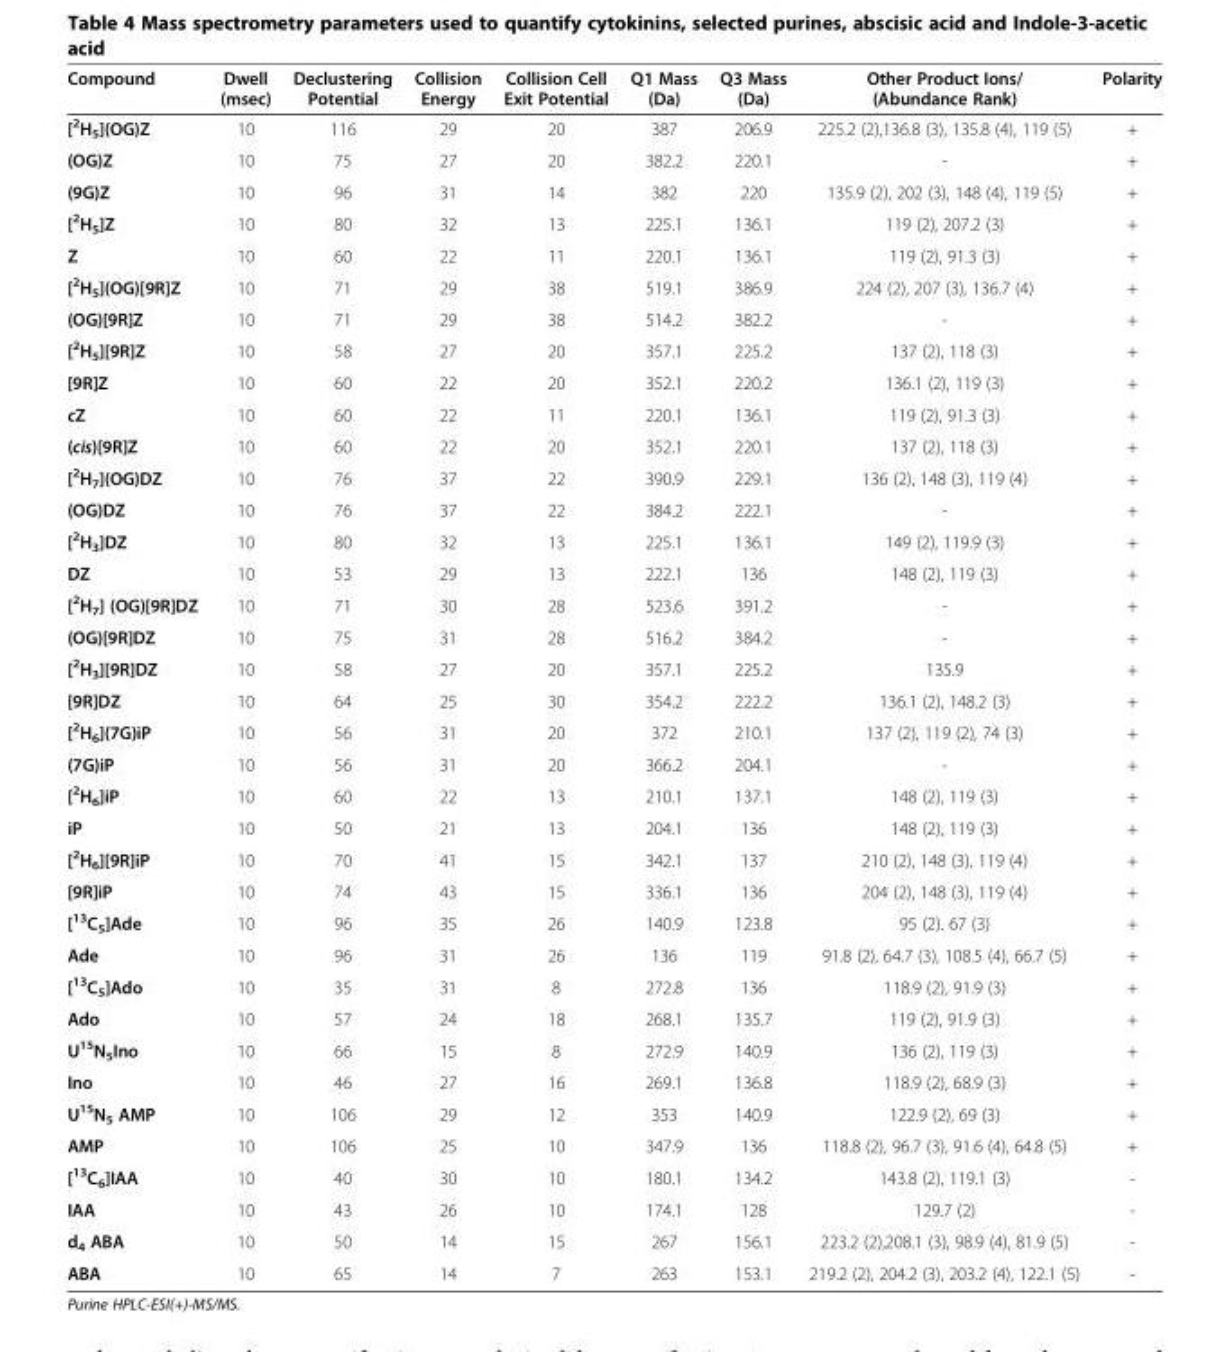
<table><thead><tr><td>Compound</td><td>Dwell (msec)</td><td>Declustering Potential</td><td>Collision Energy</td><td>Collision Cell Exit Potential</td><td>Q1 Mass (Da)</td><td>Q3 Mass (Da)</td><td>Other Product Ions/ (Abundance Rank)</td><td>Polarity</td></tr></thead><tbody><tr><td>[<sup>2</sup>H<sub>5</sub>](OG)Z</td><td>10</td><td>116</td><td>29</td><td>20</td><td>387</td><td>206.9</td><td>225.2 (2),136.8 (3), 135.8 (4), 119 (5)</td><td>+</td></tr><tr><td>(OG)Z</td><td>10</td><td>75</td><td>27</td><td>20</td><td>382.2</td><td>220.1</td><td>-</td><td>+</td></tr><tr><td>(9G)Z</td><td>10</td><td>96</td><td>31</td><td>14</td><td>382</td><td>220</td><td>135.9 (2), 202 (3), 148 (4), 119 (5)</td><td>+</td></tr><tr><td>[<sup>2</sup>H<sub>5</sub>]Z</td><td>10</td><td>80</td><td>32</td><td>13</td><td>225.1</td><td>136.1</td><td>119 (2), 207.2 (3)</td><td>+</td></tr><tr><td>Z</td><td>10</td><td>60</td><td>22</td><td>11</td><td>220.1</td><td>136.1</td><td>119 (2), 91.3 (3)</td><td>+</td></tr><tr><td>[<sup>2</sup>H<sub>5</sub>](OG)[9R]Z</td><td>10</td><td>71</td><td>29</td><td>38</td><td>519.1</td><td>386.9</td><td>224 (2), 207 (3), 136.7 (4)</td><td>+</td></tr><tr><td>(OG)[9R]Z</td><td>10</td><td>71</td><td>29</td><td>38</td><td>514.2</td><td>382.2</td><td>-</td><td>+</td></tr><tr><td>[<sup>2</sup>H<sub>5</sub>][9R]Z</td><td>10</td><td>58</td><td>27</td><td>20</td><td>357.1</td><td>225.2</td><td>137 (2), 118 (3)</td><td>+</td></tr><tr><td>[9R]Z</td><td>10</td><td>60</td><td>22</td><td>20</td><td>352.1</td><td>220.2</td><td>136.1 (2), 119 (3)</td><td>+</td></tr><tr><td>cZ</td><td>10</td><td>60</td><td>22</td><td>11</td><td>220.1</td><td>136.1</td><td>119 (2), 91.3 (3)</td><td>+</td></tr><tr><td>(cis)[9R]Z</td><td>10</td><td>60</td><td>22</td><td>20</td><td>352.1</td><td>220.1</td><td>137 (2), 118 (3)</td><td>+</td></tr><tr><td>[<sup>2</sup>H<sub>7</sub>](OG)DZ</td><td>10</td><td>76</td><td>37</td><td>22</td><td>390.9</td><td>229.1</td><td>136 (2), 148 (3), 119 (4)</td><td>+</td></tr><tr><td>(OG)DZ</td><td>10</td><td>76</td><td>37</td><td>22</td><td>384.2</td><td>222.1</td><td>-</td><td>+</td></tr><tr><td>[<sup>2</sup>H<sub>3</sub>]DZ</td><td>10</td><td>80</td><td>32</td><td>13</td><td>225.1</td><td>136.1</td><td>149 (2), 119.9 (3)</td><td>+</td></tr><tr><td>DZ</td><td>10</td><td>53</td><td>29</td><td>13</td><td>222.1</td><td>136</td><td>148 (2), 119 (3)</td><td>+</td></tr><tr><td>[<sup>2</sup>H<sub>7</sub>] (OG)[9R]DZ</td><td>10</td><td>71</td><td>30</td><td>28</td><td>523.6</td><td>391.2</td><td>-</td><td>+</td></tr><tr><td>(OG)[9R]DZ</td><td>10</td><td>75</td><td>31</td><td>28</td><td>516.2</td><td>384.2</td><td>-</td><td>+</td></tr><tr><td>[<sup>2</sup>H<sub>3</sub>][9R]DZ</td><td>10</td><td>58</td><td>27</td><td>20</td><td>357.1</td><td>225.2</td><td>135.9</td><td>+</td></tr><tr><td>[9R]DZ</td><td>10</td><td>64</td><td>25</td><td>30</td><td>354.2</td><td>222.2</td><td>136.1 (2), 148.2 (3)</td><td>+</td></tr><tr><td>[<sup>2</sup>H<sub>6</sub>](7G)iP</td><td>10</td><td>56</td><td>31</td><td>20</td><td>372</td><td>210.1</td><td>137 (2), 119 (2), 74 (3)</td><td>+</td></tr><tr><td>(7G)iP</td><td>10</td><td>56</td><td>31</td><td>20</td><td>366.2</td><td>204.1</td><td>-</td><td>+</td></tr><tr><td>[<sup>2</sup>H<sub>6</sub>]iP</td><td>10</td><td>60</td><td>22</td><td>13</td><td>210.1</td><td>137.1</td><td>148 (2), 119 (3)</td><td>+</td></tr><tr><td>iP</td><td>10</td><td>50</td><td>21</td><td>13</td><td>204.1</td><td>136</td><td>148 (2), 119 (3)</td><td>+</td></tr><tr><td>[<sup>2</sup>H<sub>6</sub>][9R]iP</td><td>10</td><td>70</td><td>41</td><td>15</td><td>342.1</td><td>137</td><td>210 (2), 148 (3), 119 (4)</td><td>+</td></tr><tr><td>[9R]iP</td><td>10</td><td>74</td><td>43</td><td>15</td><td>336.1</td><td>136</td><td>204 (2), 148 (3), 119 (4)</td><td>+</td></tr><tr><td>[<sup>13</sup>C<sub>5</sub>]Ade</td><td>10</td><td>96</td><td>35</td><td>26</td><td>140.9</td><td>123.8</td><td>95 (2). 67 (3)</td><td>+</td></tr><tr><td>Ade</td><td>10</td><td>96</td><td>31</td><td>26</td><td>136</td><td>119</td><td>91.8 (2), 64.7 (3), 108.5 (4), 66.7 (5)</td><td>+</td></tr><tr><td>[<sup>13</sup>C<sub>5</sub>]Ado</td><td>10</td><td>35</td><td>31</td><td>8</td><td>272.8</td><td>136</td><td>118.9 (2), 91.9 (3)</td><td>+</td></tr><tr><td>Ado</td><td>10</td><td>57</td><td>24</td><td>18</td><td>268.1</td><td>135.7</td><td>119 (2), 91.9 (3)</td><td>+</td></tr><tr><td>U<sup>15</sup>N<sub>5</sub>Ino</td><td>10</td><td>66</td><td>15</td><td>8</td><td>272.9</td><td>140.9</td><td>136 (2), 119 (3)</td><td>+</td></tr><tr><td>Ino</td><td>10</td><td>46</td><td>27</td><td>16</td><td>269.1</td><td>136.8</td><td>118.9 (2), 68.9 (3)</td><td>+</td></tr><tr><td>U<sup>15</sup>N<sub>5</sub> AMP</td><td>10</td><td>106</td><td>29</td><td>12</td><td>353</td><td>140.9</td><td>122.9 (2), 69 (3)</td><td>+</td></tr><tr><td>AMP</td><td>10</td><td>106</td><td>25</td><td>10</td><td>347.9</td><td>136</td><td>118.8 (2), 96.7 (3), 91.6 (4), 64.8 (5)</td><td>+</td></tr><tr><td>[<sup>13</sup>C<sub>6</sub>]IAA</td><td>10</td><td>40</td><td>30</td><td>10</td><td>180.1</td><td>134.2</td><td>143.8 (2), 119.1 (3)</td><td>-</td></tr><tr><td>IAA</td><td>10</td><td>43</td><td>26</td><td>10</td><td>174.1</td><td>128</td><td>129.7 (2)</td><td>-</td></tr><tr><td>d<sub>4</sub> ABA</td><td>10</td><td>50</td><td>14</td><td>15</td><td>267</td><td>156.1</td><td>223.2 (2),208.1 (3), 98.9 (4), 81.9 (5)</td><td>-</td></tr><tr><td>ABA</td><td>10</td><td>65</td><td>14</td><td>7</td><td>263</td><td>153.1</td><td>219.2 (2), 204.2 (3), 203.2 (4), 122.1 (5)</td><td>-</td></tr></tbody></table>